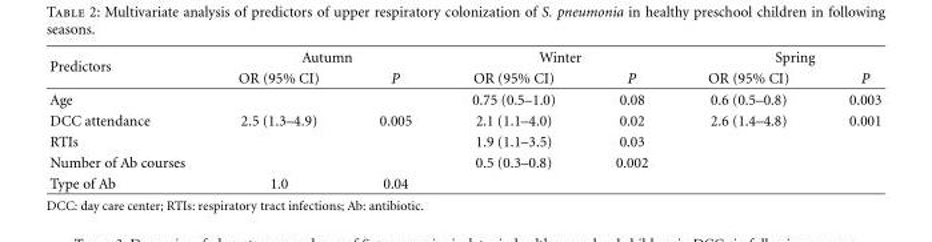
<table><thead><tr><td rowspan="2">Predictors</td><td colspan="2">Autumn</td><td colspan="2">Winter</td><td colspan="2">Spring</td></tr><tr><td>OR (95% CI)</td><td>P</td><td>OR (95% CI)</td><td>P</td><td>OR (95% CI)</td><td>P</td></tr></thead><tbody><tr><td>Age</td><td></td><td></td><td>0.75 (0.5–1.0)</td><td>0.08</td><td>0.6 (0.5–0.8)</td><td>0.003</td></tr><tr><td>DCC attendance</td><td>2.5 (1.3–4.9)</td><td>0.005</td><td>2.1 (1.1–4.0)</td><td>0.02</td><td>2.6 (1.4–4.8)</td><td>0.001</td></tr><tr><td>RTIs</td><td></td><td></td><td>1.9 (1.1–3.5)</td><td>0.03</td><td></td><td></td></tr><tr><td>Number of Ab courses</td><td></td><td></td><td>0.5 (0.3–0.8)</td><td>0.002</td><td></td><td></td></tr><tr><td>Type of Ab</td><td>1.0</td><td>0.04</td><td></td><td></td><td></td><td></td></tr></tbody></table>